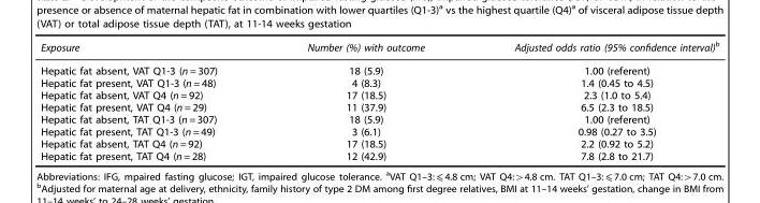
<table><thead><tr><td>Exposure</td><td>Number (%) with outcome</td><td>Adjusted odds ratio (95% confidence interval)<sup>b</sup></td></tr></thead><tbody><tr><td>Hepatic fat absent, VAT Q1-3 (n = 307)</td><td>18 (5.9)</td><td>1.00 (referent)</td></tr><tr><td>Hepatic fat present, VAT Q1-3 (n = 48)</td><td>4 (8.3)</td><td>1.4 (0.45 to 4.5)</td></tr><tr><td>Hepatic fat absent, VAT Q4 (n = 92)</td><td>17 (18.5)</td><td>2.3 (1.0 to 5.4)</td></tr><tr><td>Hepatic fat present, VAT Q4 (n = 29)</td><td>11 (37.9)</td><td>6.5 (2.3 to 18.5)</td></tr><tr><td>Hepatic fat absent, TAT Q1-3 (n = 307)</td><td>18 (5.9)</td><td>1.00 (referent)</td></tr><tr><td>Hepatic fat present, TAT Q1-3 (n = 49)</td><td>3 (6.1)</td><td>0.98 (0.27 to 3.5)</td></tr><tr><td>Hepatic fat absent, TAT Q4 (n = 92)</td><td>17 (18.5)</td><td>2.2 (0.92 to 5.2)</td></tr><tr><td>Hepatic fat present, TAT Q4 (n = 28)</td><td>12 (42.9)</td><td>7.8 (2.8 to 21.7)</td></tr></tbody></table>